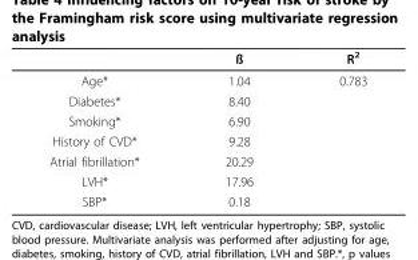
<table><thead><tr><td></td><td>ß</td><td>R<sup>2</sup></td></tr></thead><tbody><tr><td>Age*</td><td>1.04</td><td>0.783</td></tr><tr><td>Diabetes*</td><td>8.40</td><td></td></tr><tr><td>Smoking*</td><td>6.90</td><td></td></tr><tr><td>History of CVD*</td><td>9.28</td><td></td></tr><tr><td>Atrial fibrillation*</td><td>20.29</td><td></td></tr><tr><td>LVH*</td><td>17.96</td><td></td></tr><tr><td>SBP*</td><td>0.18</td><td></td></tr></tbody></table>